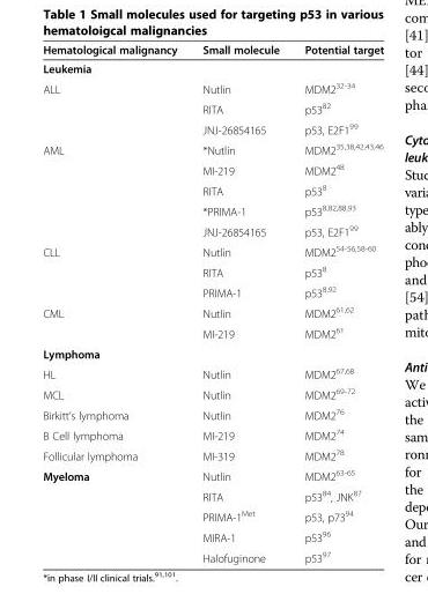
<table><thead><tr><td>Hematological malignancy</td><td>Small molecule</td><td>Potential target</td></tr></thead><tbody><tr><td colspan="3">Leukemia</td></tr><tr><td rowspan="3">ALL</td><td>Nutlin</td><td>MDM2<sup>32-34</sup></td></tr><tr><td>RITA</td><td>p53<sup>82</sup></td></tr><tr><td>JNJ-26854165</td><td>p53, E2F1<sup>99</sup></td></tr><tr><td rowspan="5">AML</td><td>*Nutlin</td><td>MDM2<sup>35,38,42,43,46</sup></td></tr><tr><td>MI-219</td><td>MDM2<sup>48</sup></td></tr><tr><td>RITA</td><td>p53<sup>8</sup></td></tr><tr><td>*PRIMA-1</td><td>p53<sup>8,82,88,93</sup></td></tr><tr><td>JNJ-26854165</td><td>p53, E2F1<sup>99</sup></td></tr><tr><td rowspan="3">CLL</td><td>Nutlin</td><td>MDM2<sup>54-56,58-60</sup></td></tr><tr><td>RITA</td><td>p53<sup>8</sup></td></tr><tr><td>PRIMA-1</td><td>p53<sup>8,92</sup></td></tr><tr><td rowspan="2">CML</td><td>Nutlin</td><td>MDM2<sup>61,62</sup></td></tr><tr><td>MI-219</td><td>MDM2<sup>61</sup></td></tr><tr><td colspan="3">Lymphoma</td></tr><tr><td>HL</td><td>Nutlin</td><td>MDM2<sup>67,68</sup></td></tr><tr><td>MCL</td><td>Nutlin</td><td>MDM2<sup>69-72</sup></td></tr><tr><td>Birkitt’s lymphoma</td><td>Nutlin</td><td>MDM2<sup>76</sup></td></tr><tr><td>B Cell lymphoma</td><td>MI-219</td><td>MDM2<sup>74</sup></td></tr><tr><td>Follicular lymphoma</td><td>MI-319</td><td>MDM2<sup>78</sup></td></tr><tr><td rowspan="5">Myeloma</td><td>Nutlin</td><td>MDM2<sup>63-65</sup></td></tr><tr><td>RITA</td><td>p53<sup>84</sup>, JNK<sup>87</sup></td></tr><tr><td>PRIMA-1<sup>Met</sup></td><td>p53, p73<sup>94</sup></td></tr><tr><td>MIRA-1</td><td>p53<sup>96</sup></td></tr><tr><td>Halofuginone</td><td>p53<sup>97</sup></td></tr></tbody></table>